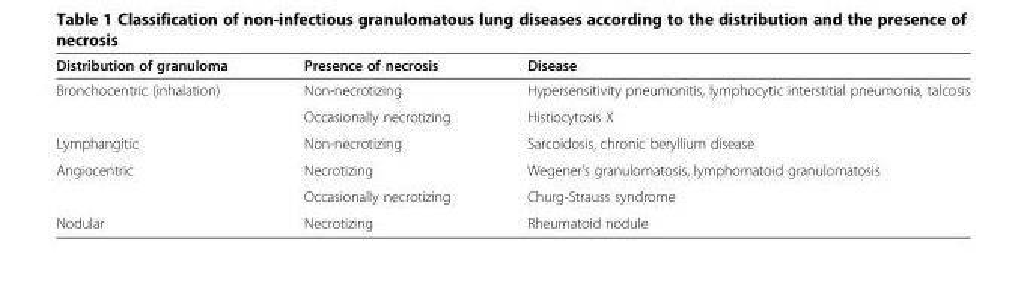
<table><thead><tr><td>Distribution of granuloma</td><td>Presence of necrosis</td><td>Disease</td></tr></thead><tbody><tr><td rowspan="2">Bronchocentric (inhalation)</td><td>Non-necrotizing</td><td>Hypersensitivity pneumonitis, lymphocytic interstitial pneumonia, talcosis</td></tr><tr><td>Occasionally necrotizing</td><td>Histiocytosis X</td></tr><tr><td>Lymphangitic</td><td>Non-necrotizing</td><td>Sarcoidosis, chronic beryllium disease</td></tr><tr><td rowspan="2">Angiocentric</td><td>Necrotizing</td><td>Wegener’s granulomatosis, lymphomatoid granulomatosis</td></tr><tr><td>Occasionally necrotizing</td><td>Churg-Strauss syndrome</td></tr><tr><td>Nodular</td><td>Necrotizing</td><td>Rheumatoid nodule</td></tr></tbody></table>